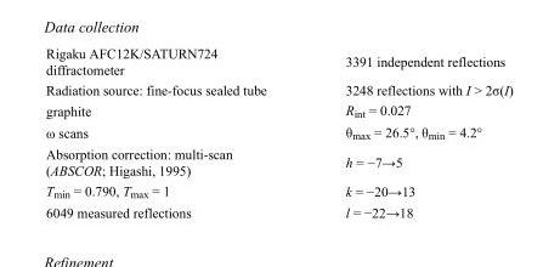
<table><tbody><tr><td>Rigaku AFC12K/SATURN724 diffractometer</td><td>3391 independent reflections</td></tr><tr><td>Radiation source: fine-focus sealed tube</td><td>3248 reflections with I &gt; 2σ(I)</td></tr><tr><td>graphite</td><td>R<sub>int</sub> = 0.027</td></tr><tr><td>ω scans</td><td>θ<sub>max</sub> = 26.5°, θ<sub>min</sub> = 4.2°</td></tr><tr><td>Absorption correction: multi-scan (ABSCOR; Higashi, 1995)</td><td>h = −7→5</td></tr><tr><td>T<sub>min</sub> = 0.790, T<sub>max</sub> = 1</td><td>k = −20→13</td></tr><tr><td>6049 measured reflections</td><td>l = −22→18</td></tr></tbody></table>